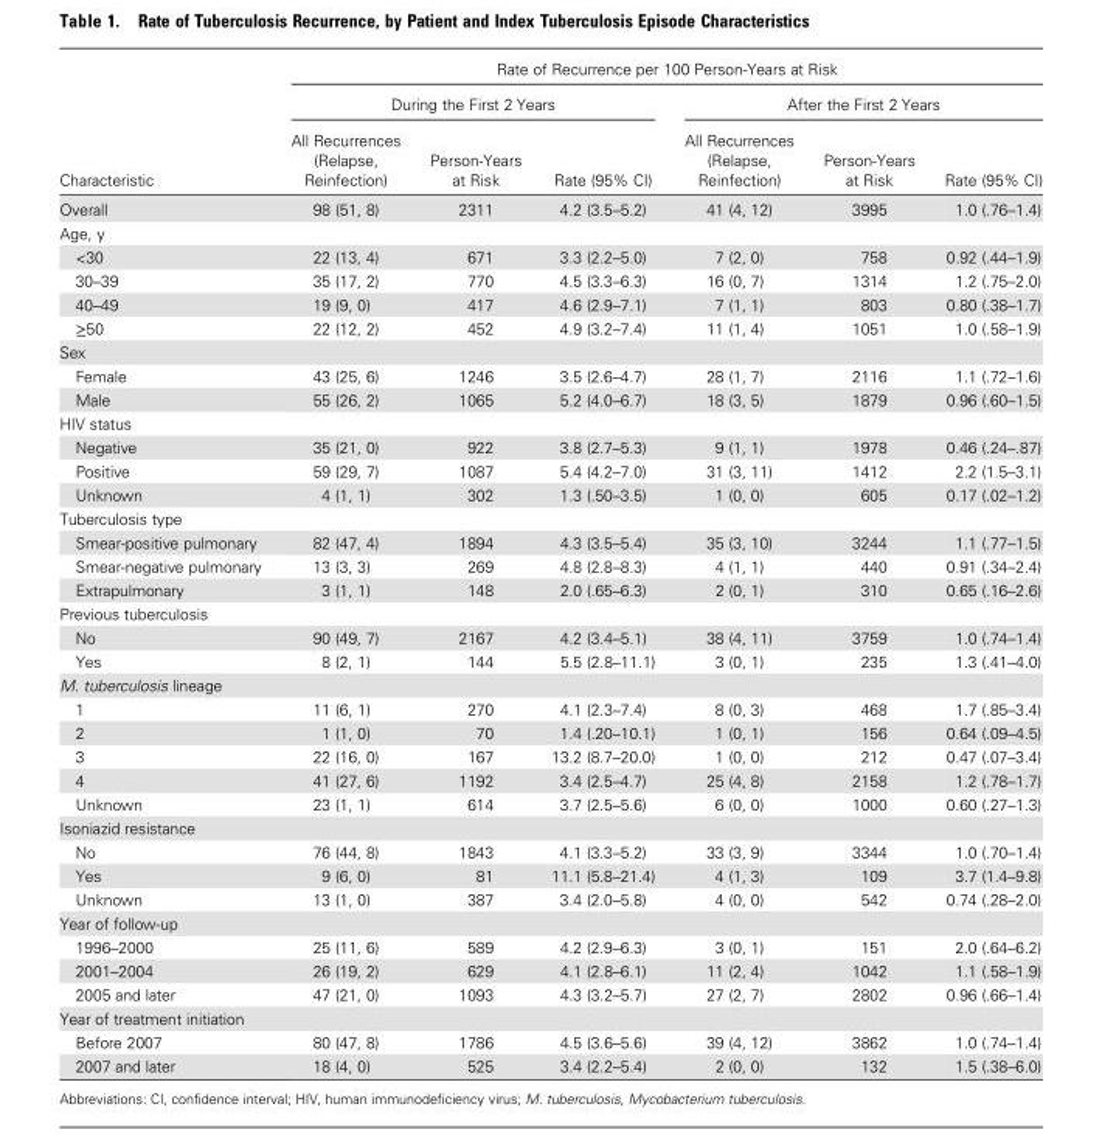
<table><thead><tr><td rowspan="3">Characteristic</td><td colspan="6">Rate of Recurrence per 100 Person-Years at Risk</td></tr><tr><td colspan="3">During the First 2 Years</td><td colspan="3">After the First 2 Years</td></tr><tr><td>All Recurrences (Relapse, Reinfection)</td><td>Person-Years at Risk</td><td>Rate (95% CI)</td><td>All Recurrences (Relapse, Reinfection)</td><td>Person-Years at Risk</td><td>Rate (95% CI)</td></tr></thead><tbody><tr><td>Overall</td><td>98 (51, 8)</td><td>2311</td><td>4.2 (3.5–5.2)</td><td>41 (4, 12)</td><td>3995</td><td>1.0 (.76–1.4)</td></tr><tr><td colspan="7">Age, y</td></tr><tr><td>&lt;30</td><td>22 (13, 4)</td><td>671</td><td>3.3 (2.2–5.0)</td><td>7 (2, 0)</td><td>758</td><td>0.92 (.44–1.9)</td></tr><tr><td>30–39</td><td>35 (17, 2)</td><td>770</td><td>4.5 (3.3–6.3)</td><td>16 (0, 7)</td><td>1314</td><td>1.2 (.75–2.0)</td></tr><tr><td>40–49</td><td>19 (9, 0)</td><td>417</td><td>4.6 (2.9–7.1)</td><td>7 (1, 1)</td><td>803</td><td>0.80 (.38–1.7)</td></tr><tr><td>≥50</td><td>22 (12, 2)</td><td>452</td><td>4.9 (3.2–7.4)</td><td>11 (1, 4)</td><td>1051</td><td>1.0 (.58–1.9)</td></tr><tr><td colspan="7">Sex</td></tr><tr><td>Female</td><td>43 (25, 6)</td><td>1246</td><td>3.5 (2.6–4.7)</td><td>28 (1, 7)</td><td>2116</td><td>1.1 (.72–1.6)</td></tr><tr><td>Male</td><td>55 (26, 2)</td><td>1065</td><td>5.2 (4.0–6.7)</td><td>18 (3, 5)</td><td>1879</td><td>0.96 (.60–1.5)</td></tr><tr><td colspan="7">HIV status</td></tr><tr><td>Negative</td><td>35 (21, 0)</td><td>922</td><td>3.8 (2.7–5.3)</td><td>9 (1, 1)</td><td>1978</td><td>0.46 (.24–.87)</td></tr><tr><td>Positive</td><td>59 (29, 7)</td><td>1087</td><td>5.4 (4.2–7.0)</td><td>31 (3, 11)</td><td>1412</td><td>2.2 (1.5–3.1)</td></tr><tr><td>Unknown</td><td>4 (1, 1)</td><td>302</td><td>1.3 (.50–3.5)</td><td>1 (0, 0)</td><td>605</td><td>0.17 (.02–1.2)</td></tr><tr><td colspan="7">Tuberculosis type</td></tr><tr><td>Smear-positive pulmonary</td><td>82 (47, 4)</td><td>1894</td><td>4.3 (3.5–5.4)</td><td>35 (3, 10)</td><td>3244</td><td>1.1 (.77–1.5)</td></tr><tr><td>Smear-negative pulmonary</td><td>13 (3, 3)</td><td>269</td><td>4.8 (2.8–8.3)</td><td>4 (1, 1)</td><td>440</td><td>0.91 (.34–2.4)</td></tr><tr><td>Extrapulmonary</td><td>3 (1, 1)</td><td>148</td><td>2.0 (.65–6.3)</td><td>2 (0, 1)</td><td>310</td><td>0.65 (.16–2.6)</td></tr><tr><td colspan="7">Previous tuberculosis</td></tr><tr><td>No</td><td>90 (49, 7)</td><td>2167</td><td>4.2 (3.4–5.1)</td><td>38 (4, 11)</td><td>3759</td><td>1.0 (.74–1.4)</td></tr><tr><td>Yes</td><td>8 (2, 1)</td><td>144</td><td>5.5 (2.8–11.1)</td><td>3 (0, 1)</td><td>235</td><td>1.3 (.41–4.0)</td></tr><tr><td colspan="7">M. tuberculosis lineage</td></tr><tr><td>1</td><td>11 (6, 1)</td><td>270</td><td>4.1 (2.3–7.4)</td><td>8 (0, 3)</td><td>468</td><td>1.7 (.85–3.4)</td></tr><tr><td>2</td><td>1 (1, 0)</td><td>70</td><td>1.4 (.20–10.1)</td><td>1 (0, 1)</td><td>156</td><td>0.64 (.09–4.5)</td></tr><tr><td>3</td><td>22 (16, 0)</td><td>167</td><td>13.2 (8.7–20.0)</td><td>1 (0, 0)</td><td>212</td><td>0.47 (.07–3.4)</td></tr><tr><td>4</td><td>41 (27, 6)</td><td>1192</td><td>3.4 (2.5–4.7)</td><td>25 (4, 8)</td><td>2158</td><td>1.2 (.78–1.7)</td></tr><tr><td>Unknown</td><td>23 (1, 1)</td><td>614</td><td>3.7 (2.5–5.6)</td><td>6 (0, 0)</td><td>1000</td><td>0.60 (.27–1.3)</td></tr><tr><td colspan="7">Isoniazid resistance</td></tr><tr><td>No</td><td>76 (44, 8)</td><td>1843</td><td>4.1 (3.3–5.2)</td><td>33 (3, 9)</td><td>3344</td><td>1.0 (.70–1.4)</td></tr><tr><td>Yes</td><td>9 (6, 0)</td><td>81</td><td>11.1 (5.8–21.4)</td><td>4 (1, 3)</td><td>109</td><td>3.7 (1.4–9.8)</td></tr><tr><td>Unknown</td><td>13 (1, 0)</td><td>387</td><td>3.4 (2.0–5.8)</td><td>4 (0, 0)</td><td>542</td><td>0.74 (.28–2.0)</td></tr><tr><td colspan="7">Year of follow-up</td></tr><tr><td>1996–2000</td><td>25 (11, 6)</td><td>589</td><td>4.2 (2.9–6.3)</td><td>3 (0, 1)</td><td>151</td><td>2.0 (.64–6.2)</td></tr><tr><td>2001–2004</td><td>26 (19, 2)</td><td>629</td><td>4.1 (2.8–6.1)</td><td>11 (2, 4)</td><td>1042</td><td>1.1 (.58–1.9)</td></tr><tr><td>2005 and later</td><td>47 (21, 0)</td><td>1093</td><td>4.3 (3.2–5.7)</td><td>27 (2, 7)</td><td>2802</td><td>0.96 (.66–1.4)</td></tr><tr><td colspan="7">Year of treatment initiation</td></tr><tr><td>Before 2007</td><td>80 (47, 8)</td><td>1786</td><td>4.5 (3.6–5.6)</td><td>39 (4, 12)</td><td>3862</td><td>1.0 (.74–1.4)</td></tr><tr><td>2007 and later</td><td>18 (4, 0)</td><td>525</td><td>3.4 (2.2–5.4)</td><td>2 (0, 0)</td><td>132</td><td>1.5 (.38–6.0)</td></tr></tbody></table>